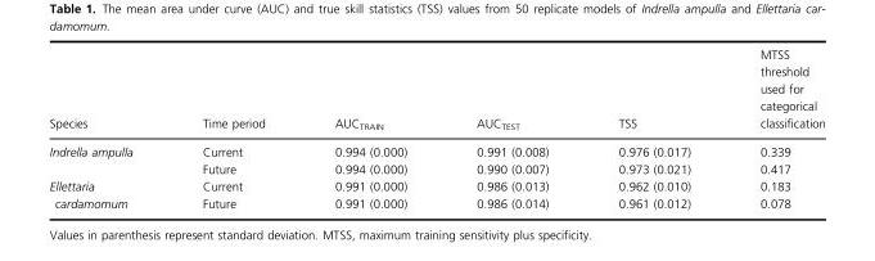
<table><thead><tr><td>Species</td><td>Time period</td><td>AUC<sub>TRAIN</sub></td><td>AUC<sub>TEST</sub></td><td>TSS</td><td>MTSS threshold used for categorical classification</td></tr></thead><tbody><tr><td rowspan="2">Indrella ampulla</td><td>Current</td><td>0.994 (0.000)</td><td>0.991 (0.008)</td><td>0.976 (0.017)</td><td>0.339</td></tr><tr><td>Future</td><td>0.994 (0.000)</td><td>0.990 (0.007)</td><td>0.973 (0.021)</td><td>0.417</td></tr><tr><td rowspan="2">Ellettaria cardamomum</td><td>Current</td><td>0.991 (0.000)</td><td>0.986 (0.013)</td><td>0.962 (0.010)</td><td>0.183</td></tr><tr><td>Future</td><td>0.991 (0.000)</td><td>0.986 (0.014)</td><td>0.961 (0.012)</td><td>0.078</td></tr></tbody></table>